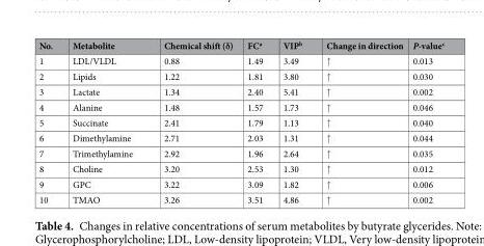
<table><thead><tr><td>No.</td><td>Metabolite</td><td>Chemical shift (δ)</td><td>FC<sup>a</sup></td><td>VIP<sup>b</sup></td><td>Change in direction</td><td>P-value<sup>c</sup></td></tr></thead><tbody><tr><td>1</td><td>LDL/VLDL</td><td>0.88</td><td>1.49</td><td>3.49</td><td>↑</td><td>0.013</td></tr><tr><td>2</td><td>Lipids</td><td>1.22</td><td>1.81</td><td>3.80</td><td>↑</td><td>0.030</td></tr><tr><td>3</td><td>Lactate</td><td>1.34</td><td>2.40</td><td>5.41</td><td>↑</td><td>0.002</td></tr><tr><td>4</td><td>Alanine</td><td>1.48</td><td>1.57</td><td>1.73</td><td>↑</td><td>0.046</td></tr><tr><td>5</td><td>Succinate</td><td>2.41</td><td>1.79</td><td>1.13</td><td>↑</td><td>0.040</td></tr><tr><td>6</td><td>Dimethylamine</td><td>2.71</td><td>2.03</td><td>1.31</td><td>↑</td><td>0.044</td></tr><tr><td>7</td><td>Trimethylamine</td><td>2.92</td><td>1.96</td><td>2.64</td><td>↑</td><td>0.035</td></tr><tr><td>8</td><td>Choline</td><td>3.20</td><td>2.53</td><td>1.30</td><td>↑</td><td>0.012</td></tr><tr><td>9</td><td>GPC</td><td>3.22</td><td>3.09</td><td>1.82</td><td>↑</td><td>0.006</td></tr><tr><td>10</td><td>TMAO</td><td>3.26</td><td>3.51</td><td>4.86</td><td>↑</td><td>0.002</td></tr></tbody></table>